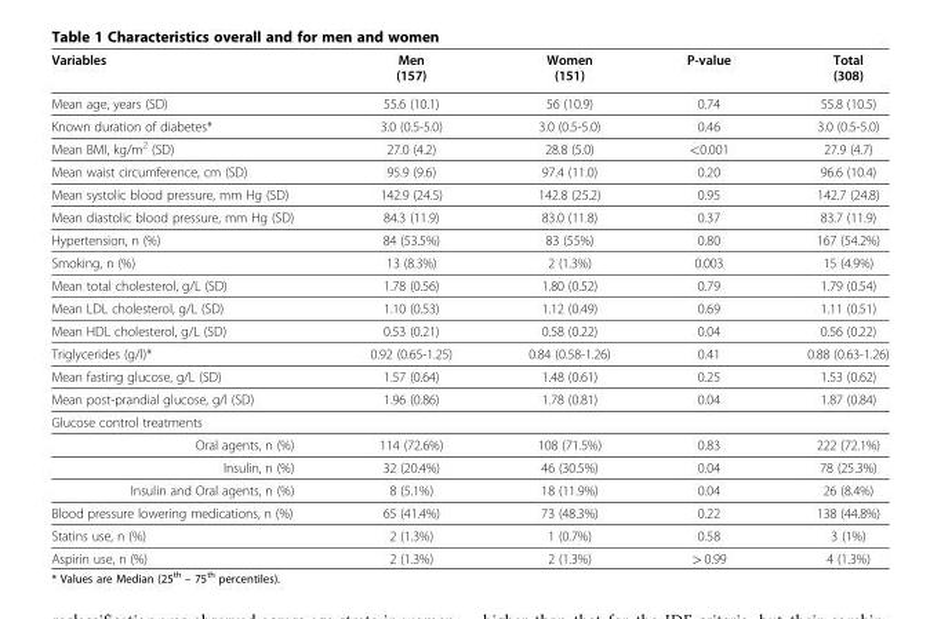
<table><thead><tr><td>Variables</td><td>Men (157)</td><td>Women (151)</td><td>P-value</td><td>Total (308)</td></tr></thead><tbody><tr><td>Mean age, years (SD)</td><td>55.6 (10.1)</td><td>56 (10.9)</td><td>0.74</td><td>55.8 (10.5)</td></tr><tr><td>Known duration of diabetes*</td><td>3.0 (0.5-5.0)</td><td>3.0 (0.5-5.0)</td><td>0.46</td><td>3.0 (0.5-5.0)</td></tr><tr><td>Mean BMI, kg/m<sup>2</sup> (SD)</td><td>27.0 (4.2)</td><td>28.8 (5.0)</td><td>&lt;0.001</td><td>27.9 (4.7)</td></tr><tr><td>Mean waist circumference, cm (SD)</td><td>95.9 (9.6)</td><td>97.4 (11.0)</td><td>0.20</td><td>96.6 (10.4)</td></tr><tr><td>Mean systolic blood pressure, mm Hg (SD)</td><td>142.9 (24.5)</td><td>142.8 (25.2)</td><td>0.95</td><td>142.7 (24.8)</td></tr><tr><td>Mean diastolic blood pressure, mm Hg (SD)</td><td>84.3 (11.9)</td><td>83.0 (11.8)</td><td>0.37</td><td>83.7 (11.9)</td></tr><tr><td>Hypertension, n (%)</td><td>84 (53.5%)</td><td>83 (55%)</td><td>0.80</td><td>167 (54.2%)</td></tr><tr><td>Smoking, n (%)</td><td>13 (8.3%)</td><td>2 (1.3%)</td><td>0.003</td><td>15 (4.9%)</td></tr><tr><td>Mean total cholesterol, g/L (SD)</td><td>1.78 (0.56)</td><td>1.80 (0.52)</td><td>0.79</td><td>1.79 (0.54)</td></tr><tr><td>Mean LDL cholesterol, g/L (SD)</td><td>1.10 (0.53)</td><td>1.12 (0.49)</td><td>0.69</td><td>1.11 (0.51)</td></tr><tr><td>Mean HDL cholesterol, g/L (SD)</td><td>0.53 (0.21)</td><td>0.58 (0.22)</td><td>0.04</td><td>0.56 (0.22)</td></tr><tr><td>Triglycerides (g/l)*</td><td>0.92 (0.65-1.25)</td><td>0.84 (0.58-1.26)</td><td>0.41</td><td>0.88 (0.63-1.26)</td></tr><tr><td>Mean fasting glucose, g/L (SD)</td><td>1.57 (0.64)</td><td>1.48 (0.61)</td><td>0.25</td><td>1.53 (0.62)</td></tr><tr><td>Mean post-prandial glucose, g/l (SD)</td><td>1.96 (0.86)</td><td>1.78 (0.81)</td><td>0.04</td><td>1.87 (0.84)</td></tr><tr><td colspan="5">Glucose control treatments</td></tr><tr><td>Oral agents, n (%)</td><td>114 (72.6%)</td><td>108 (71.5%)</td><td>0.83</td><td>222 (72.1%)</td></tr><tr><td>Insulin, n (%)</td><td>32 (20.4%)</td><td>46 (30.5%)</td><td>0.04</td><td>78 (25.3%)</td></tr><tr><td>Insulin and Oral agents, n (%)</td><td>8 (5.1%)</td><td>18 (11.9%)</td><td>0.04</td><td>26 (8.4%)</td></tr><tr><td>Blood pressure lowering medications, n (%)</td><td>65 (41.4%)</td><td>73 (48.3%)</td><td>0.22</td><td>138 (44.8%)</td></tr><tr><td>Statins use, n (%)</td><td>2 (1.3%)</td><td>1 (0.7%)</td><td>0.58</td><td>3 (1%)</td></tr><tr><td>Aspirin use, n (%)</td><td>2 (1.3%)</td><td>2 (1.3%)</td><td>&gt; 0.99</td><td>4 (1.3%)</td></tr></tbody></table>